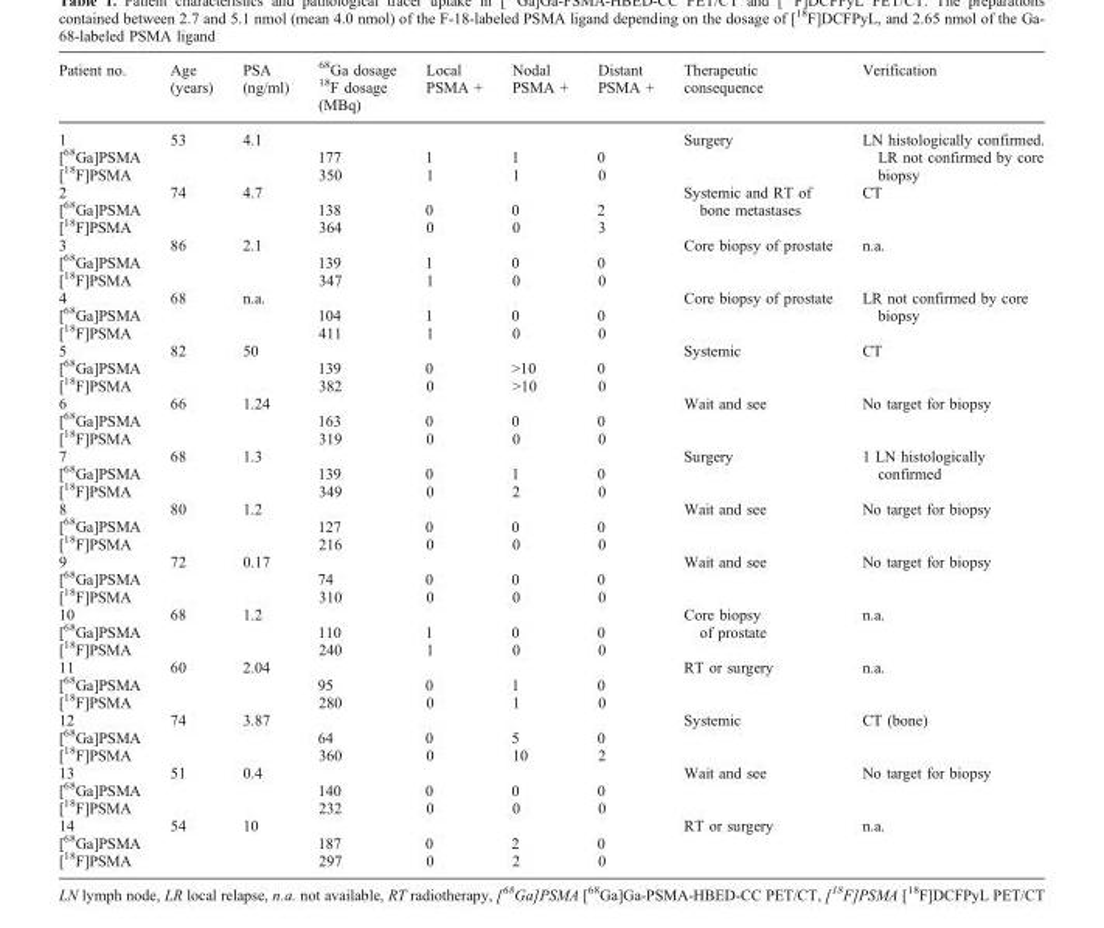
<table><thead><tr><td>Patient no.</td><td>Age (years)</td><td>PSA (ng/ml)</td><td><sup>68</sup>Ga dosage <sup>18</sup>F dosage (MBq)</td><td>Local PSMA +</td><td>Nodal PSMA +</td><td>Distant PSMA +</td><td>Therapeutic consequence</td><td>Verification</td></tr></thead><tbody><tr><td>1 [<sup>68</sup>Ga]PSMA [<sup>18</sup>F]PSMA</td><td>53</td><td>4.1</td><td>177 350</td><td>1 1</td><td>1 1</td><td>0 0</td><td>Surgery</td><td>LN histologically confirmed. LR not confirmed by core biopsy</td></tr><tr><td>2 [<sup>68</sup>Ga]PSMA [<sup>18</sup>F]PSMA</td><td>74</td><td>4.7</td><td>138 364</td><td>0 0</td><td>0 0</td><td>2 3</td><td>Systemic and RT of bone metastases</td><td>CT</td></tr><tr><td>3 [<sup>68</sup>Ga]PSMA [<sup>18</sup>F]PSMA</td><td>86</td><td>2.1</td><td>139 347</td><td>1 1</td><td>0 0</td><td>0 0</td><td>Core biopsy of prostate</td><td>n.a.</td></tr><tr><td>4 [<sup>68</sup>Ga]PSMA [<sup>18</sup>F]PSMA</td><td>68</td><td>n.a.</td><td>104 411</td><td>1 1</td><td>0 0</td><td>0 0</td><td>Core biopsy of prostate</td><td>LR not confirmed by core biopsy</td></tr><tr><td>5 [<sup>68</sup>Ga]PSMA [<sup>18</sup>F]PSMA</td><td>82</td><td>50</td><td>139 382</td><td>0 0</td><td>&gt;10 &gt;10</td><td>0 0</td><td>Systemic</td><td>CT</td></tr><tr><td>6 [<sup>68</sup>Ga]PSMA [<sup>18</sup>F]PSMA</td><td>66</td><td>1.24</td><td>163 319</td><td>0 0</td><td>0 0</td><td>0 0</td><td>Wait and see</td><td>No target for biopsy</td></tr><tr><td>7 [<sup>68</sup>Ga]PSMA [<sup>18</sup>F]PSMA</td><td>68</td><td>1.3</td><td>139 349</td><td>0 0</td><td>1 2</td><td>0 0</td><td>Surgery</td><td>1 LN histologically confirmed</td></tr><tr><td>8 [<sup>68</sup>Ga]PSMA [<sup>18</sup>F]PSMA</td><td>80</td><td>1.2</td><td>127 216</td><td>0 0</td><td>0 0</td><td>0 0</td><td>Wait and see</td><td>No target for biopsy</td></tr><tr><td>9 [<sup>68</sup>Ga]PSMA [<sup>18</sup>F]PSMA</td><td>72</td><td>0.17</td><td>74 310</td><td>0 0</td><td>0 0</td><td>0 0</td><td>Wait and see</td><td>No target for biopsy</td></tr><tr><td>10 [<sup>68</sup>Ga]PSMA [<sup>18</sup>F]PSMA</td><td>68</td><td>1.2</td><td>110 240</td><td>1 1</td><td>0 0</td><td>0 0</td><td>Core biopsy of prostate</td><td>n.a.</td></tr><tr><td>11 [<sup>68</sup>Ga]PSMA [<sup>18</sup>F]PSMA</td><td>60</td><td>2.04</td><td>95 280</td><td>0 0</td><td>1 1</td><td>0 0</td><td>RT or surgery</td><td>n.a.</td></tr><tr><td>12 [<sup>68</sup>Ga]PSMA [<sup>18</sup>F]PSMA</td><td>74</td><td>3.87</td><td>64 360</td><td>0 0</td><td>5 10</td><td>0 2</td><td>Systemic</td><td>CT (bone)</td></tr><tr><td>13 [<sup>68</sup>Ga]PSMA [<sup>18</sup>F]PSMA</td><td>51</td><td>0.4</td><td>140 232</td><td>0 0</td><td>0 0</td><td>0 0</td><td>Wait and see</td><td>No target for biopsy</td></tr><tr><td>14 [<sup>68</sup>Ga]PSMA [<sup>18</sup>F]PSMA</td><td>54</td><td>10</td><td>187 297</td><td>0 0</td><td>2 2</td><td>0 0</td><td>RT or surgery</td><td>n.a.</td></tr></tbody></table>